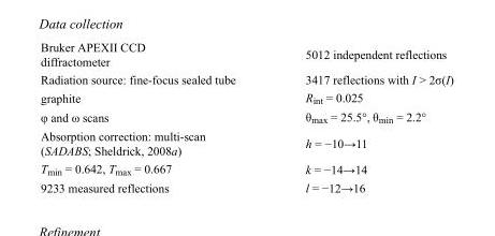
<table><tbody><tr><td>Bruker APEXII CCD diffractometer</td><td>5012 independent reflections</td></tr><tr><td>Radiation source: fine-focus sealed tube</td><td>3417 reflections with I &gt; 2σ(I)</td></tr><tr><td>graphite</td><td>R<sub>int</sub> = 0.025</td></tr><tr><td>φ and ω scans</td><td>θ<sub>max</sub> = 25.5°, θ<sub>min</sub> = 2.2°</td></tr><tr><td>Absorption correction: multi-scan (SADABS; Sheldrick, 2008a)</td><td>h = −10→11</td></tr><tr><td>T<sub>min</sub> = 0.642, T<sub>max</sub> = 0.667</td><td>k = −14→14</td></tr><tr><td>9233 measured reflections</td><td>l = −12→16</td></tr></tbody></table>